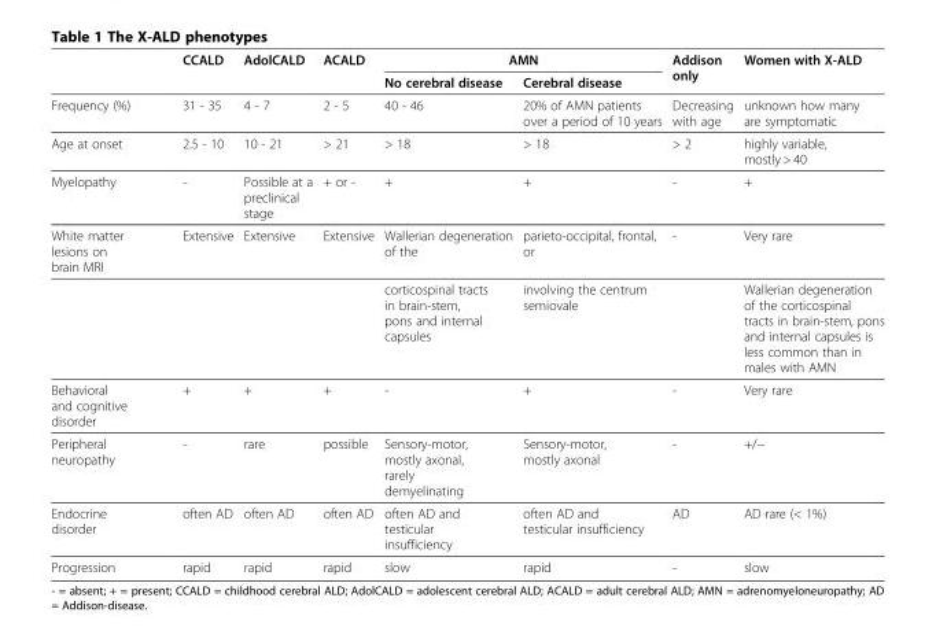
<table><thead><tr><td rowspan="2"></td><td rowspan="2">CCALD</td><td rowspan="2">AdolCALD</td><td rowspan="2">ACALD</td><td colspan="2">AMN</td><td rowspan="2">Addison only</td><td rowspan="2">Women with X-ALD</td></tr><tr><td>No cerebral disease</td><td>Cerebral disease</td></tr></thead><tbody><tr><td>Frequency (%)</td><td>31 - 35</td><td>4 - 7</td><td>2 - 5</td><td>40 - 46</td><td>20% of AMN patients over a period of 10 years</td><td>Decreasing with age</td><td>unknown how many are symptomatic</td></tr><tr><td>Age at onset</td><td>2.5 - 10</td><td>10 - 21</td><td>&gt; 21</td><td>&gt; 18</td><td>&gt; 18</td><td>&gt; 2</td><td>highly variable, mostly &gt; 40</td></tr><tr><td>Myelopathy</td><td>-</td><td>Possible at a preclinical stage</td><td>+ or -</td><td>+</td><td>+</td><td>-</td><td>+</td></tr><tr><td rowspan="2">White matter lesions on brain MRI</td><td>Extensive</td><td>Extensive</td><td>Extensive</td><td>Wallerian degeneration of the</td><td>parieto-occipital, frontal, or</td><td>-</td><td>Very rare</td></tr><tr><td></td><td></td><td></td><td>corticospinal tracts in brain-stem, pons and internal capsules</td><td>involving the centrum semiovale</td><td></td><td>Wallerian degeneration of the corticospinal tracts in brain-stem, pons and internal capsules is less common than in males with AMN</td></tr><tr><td>Behavioral and cognitive disorder</td><td>+</td><td>+</td><td>+</td><td>-</td><td>+</td><td>-</td><td>Very rare</td></tr><tr><td>Peripheral neuropathy</td><td>-</td><td>rare</td><td>possible</td><td>Sensory-motor, mostly axonal, rarely demyelinating</td><td>Sensory-motor, mostly axonal</td><td>-</td><td>+/−</td></tr><tr><td>Endocrine disorder</td><td>often AD</td><td>often AD</td><td>often AD</td><td>often AD and testicular insufficiency</td><td>often AD and testicular insufficiency</td><td>AD</td><td>AD rare (&lt; 1%)</td></tr><tr><td>Progression</td><td>rapid</td><td>rapid</td><td>rapid</td><td>slow</td><td>rapid</td><td>-</td><td>slow</td></tr></tbody></table>